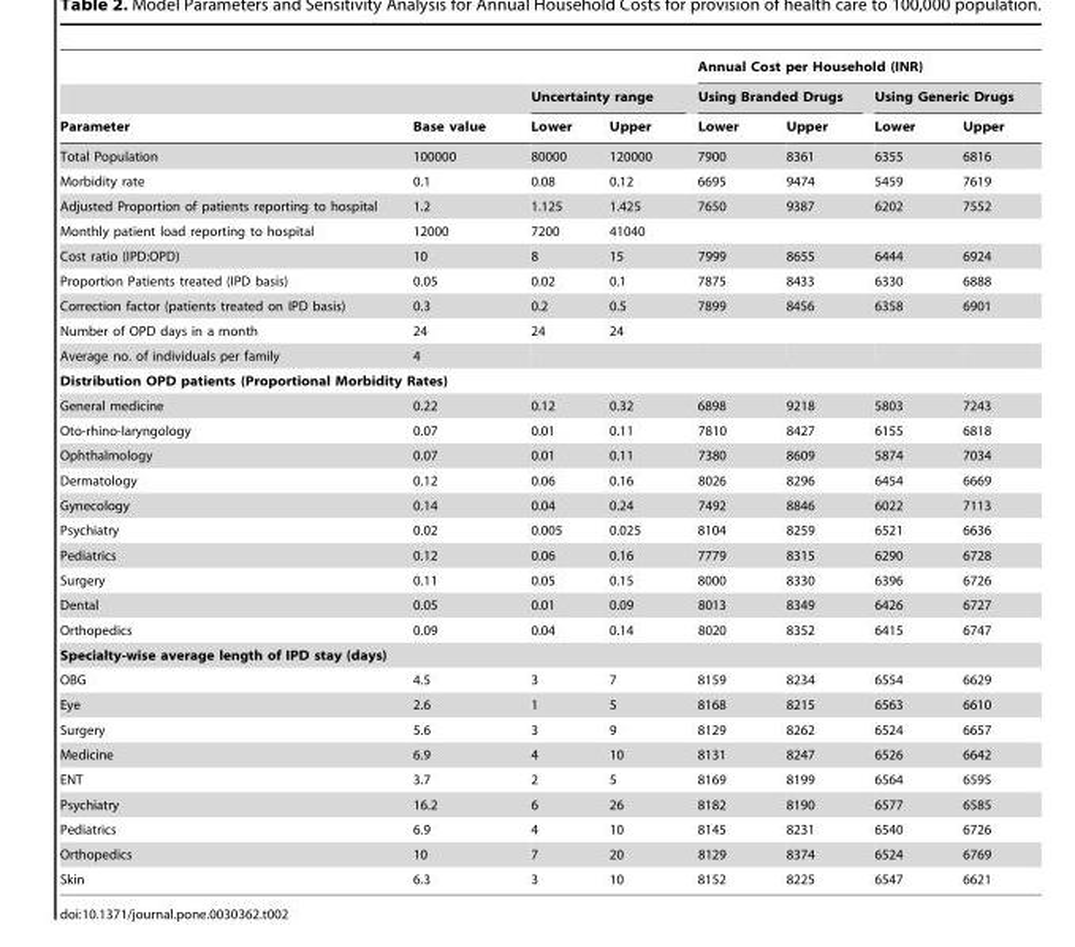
<table><thead><tr><td rowspan="3">Parameter</td><td rowspan="3">Base value</td><td></td><td></td><td colspan="4">Annual Cost per Household (INR)</td></tr><tr><td colspan="2">Uncertainty range</td><td colspan="2">Using Branded Drugs</td><td colspan="2">Using Generic Drugs</td></tr><tr><td>Lower</td><td>Upper</td><td>Lower</td><td>Upper</td><td>Lower</td><td>Upper</td></tr></thead><tbody><tr><td>Total Population</td><td>100000</td><td>80000</td><td>120000</td><td>7900</td><td>8361</td><td>6355</td><td>6816</td></tr><tr><td>Morbidity rate</td><td>0.1</td><td>0.08</td><td>0.12</td><td>6695</td><td>9474</td><td>5459</td><td>7619</td></tr><tr><td>Adjusted Proportion of patients reporting to hospital</td><td>1.2</td><td>1.125</td><td>1.425</td><td>7650</td><td>9387</td><td>6202</td><td>7552</td></tr><tr><td>Monthly patient load reporting to hospital</td><td>12000</td><td>7200</td><td>41040</td><td></td><td></td><td></td><td></td></tr><tr><td>Cost ratio (IPD:OPD)</td><td>10</td><td>8</td><td>15</td><td>7999</td><td>8655</td><td>6444</td><td>6924</td></tr><tr><td>Proportion Patients treated (IPD basis)</td><td>0.05</td><td>0.02</td><td>0.1</td><td>7875</td><td>8433</td><td>6330</td><td>6888</td></tr><tr><td>Correction factor (patients treated on IPD basis)</td><td>0.3</td><td>0.2</td><td>0.5</td><td>7899</td><td>8456</td><td>6358</td><td>6901</td></tr><tr><td>Number of OPD days in a month</td><td>24</td><td>24</td><td>24</td><td></td><td></td><td></td><td></td></tr><tr><td>Average no. of individuals per family</td><td>4</td><td></td><td></td><td></td><td></td><td></td><td></td></tr><tr><td colspan="8">Distribution OPD patients (Proportional Morbidity Rates)</td></tr><tr><td>General medicine</td><td>0.22</td><td>0.12</td><td>0.32</td><td>6898</td><td>9218</td><td>5803</td><td>7243</td></tr><tr><td>Oto-rhino-laryngology</td><td>0.07</td><td>0.01</td><td>0.11</td><td>7810</td><td>8427</td><td>6155</td><td>6818</td></tr><tr><td>Ophthalmology</td><td>0.07</td><td>0.01</td><td>0.11</td><td>7380</td><td>8609</td><td>5874</td><td>7034</td></tr><tr><td>Dermatology</td><td>0.12</td><td>0.06</td><td>0.16</td><td>8026</td><td>8296</td><td>6454</td><td>6669</td></tr><tr><td>Gynecology</td><td>0.14</td><td>0.04</td><td>0.24</td><td>7492</td><td>8846</td><td>6022</td><td>7113</td></tr><tr><td>Psychiatry</td><td>0.02</td><td>0.005</td><td>0.025</td><td>8104</td><td>8259</td><td>6521</td><td>6636</td></tr><tr><td>Pediatrics</td><td>0.12</td><td>0.06</td><td>0.16</td><td>7779</td><td>8315</td><td>6290</td><td>6728</td></tr><tr><td>Surgery</td><td>0.11</td><td>0.05</td><td>0.15</td><td>8000</td><td>8330</td><td>6396</td><td>6726</td></tr><tr><td>Dental</td><td>0.05</td><td>0.01</td><td>0.09</td><td>8013</td><td>8349</td><td>6426</td><td>6727</td></tr><tr><td>Orthopedics</td><td>0.09</td><td>0.04</td><td>0.14</td><td>8020</td><td>8352</td><td>6415</td><td>6747</td></tr><tr><td colspan="8">Specialty-wise average length of IPD stay (days)</td></tr><tr><td>OBG</td><td>4.5</td><td>3</td><td>7</td><td>8159</td><td>8234</td><td>6554</td><td>6629</td></tr><tr><td>Eye</td><td>2.6</td><td>1</td><td>5</td><td>8168</td><td>8215</td><td>6563</td><td>6610</td></tr><tr><td>Surgery</td><td>5.6</td><td>3</td><td>9</td><td>8129</td><td>8262</td><td>6524</td><td>6657</td></tr><tr><td>Medicine</td><td>6.9</td><td>4</td><td>10</td><td>8131</td><td>8247</td><td>6526</td><td>6642</td></tr><tr><td>ENT</td><td>3.7</td><td>2</td><td>5</td><td>8169</td><td>8199</td><td>6564</td><td>6595</td></tr><tr><td>Psychiatry</td><td>16.2</td><td>6</td><td>26</td><td>8182</td><td>8190</td><td>6577</td><td>6585</td></tr><tr><td>Pediatrics</td><td>6.9</td><td>4</td><td>10</td><td>8145</td><td>8231</td><td>6540</td><td>6726</td></tr><tr><td>Orthopedics</td><td>10</td><td>7</td><td>20</td><td>8129</td><td>8374</td><td>6524</td><td>6769</td></tr><tr><td>Skin</td><td>6.3</td><td>3</td><td>10</td><td>8152</td><td>8225</td><td>6547</td><td>6621</td></tr></tbody></table>